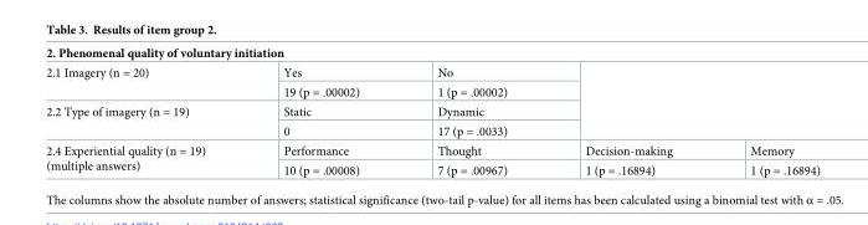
<table><thead><tr><td colspan="5">2. Phenomenal quality of voluntary initiation</td></tr></thead><tbody><tr><td rowspan="2">2.1 Imagery (n = 20)</td><td>Yes</td><td>No</td><td rowspan="4" colspan="2"></td></tr><tr><td>19 (p = .00002)</td><td>1 (p = .00002)</td></tr><tr><td rowspan="2">2.2 Type of imagery (n = 19)</td><td>Static</td><td>Dynamic</td></tr><tr><td>0</td><td>17 (p = .0033)</td></tr><tr><td rowspan="2">2.4 Experiential quality (n = 19) (multiple answers)</td><td>Performance</td><td>Thought</td><td>Decision-making</td><td>Memory</td></tr><tr><td>10 (p = .00008)</td><td>7 (p = .00967)</td><td>1 (p = .16894)</td><td>1 (p = .16894)</td></tr></tbody></table>